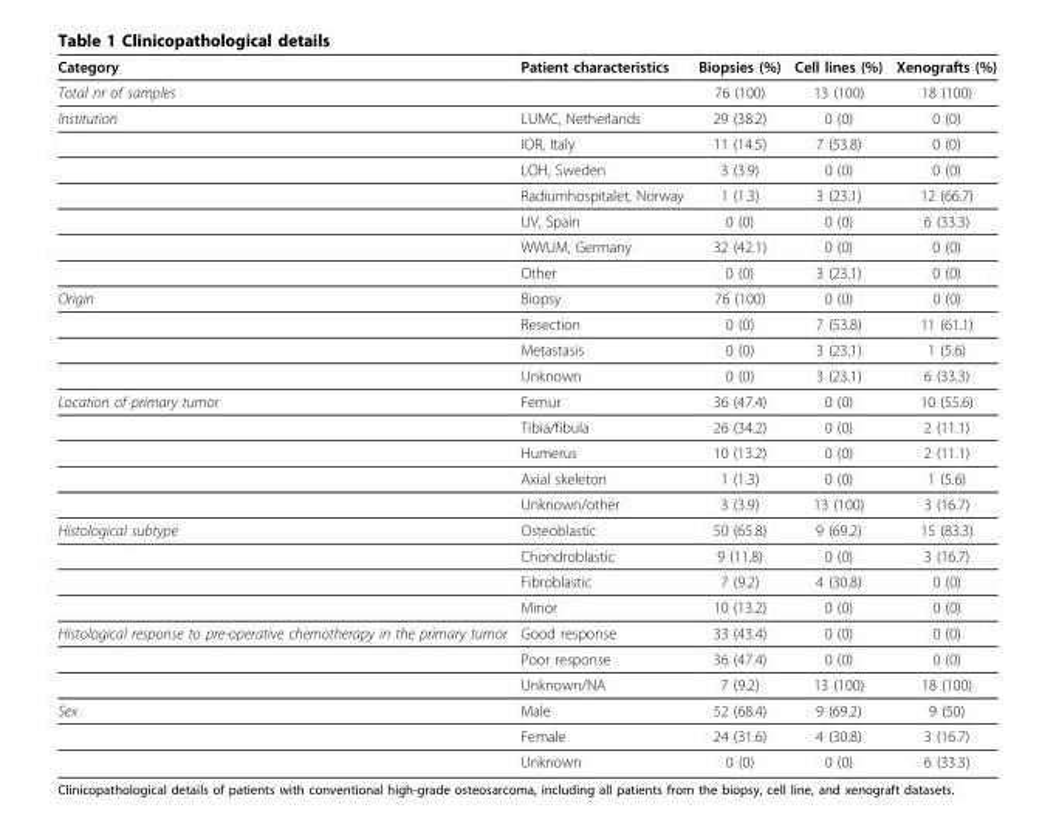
<table><thead><tr><td>Category</td><td>Patient characteristics</td><td>Biopsies (%)</td><td>Cell lines (%)</td><td>Xenografts (%)</td></tr></thead><tbody><tr><td>Total nr of samples</td><td></td><td>76 (100)</td><td>13 (100)</td><td>18 (100)</td></tr><tr><td rowspan="7">Institution</td><td>LUMC, Netherlands</td><td>29 (38.2)</td><td>0 (0)</td><td>0 (0)</td></tr><tr><td>IOR, Italy</td><td>11 (14.5)</td><td>7 (53.8)</td><td>0 (0)</td></tr><tr><td>LOH, Sweden</td><td>3 (3.9)</td><td>0 (0)</td><td>0 (0)</td></tr><tr><td>Radiumhospitalet, Norway</td><td>1 (1.3)</td><td>3 (23.1)</td><td>12 (66.7)</td></tr><tr><td>UV, Spain</td><td>0 (0)</td><td>0 (0)</td><td>6 (33.3)</td></tr><tr><td>WWUM, Germany</td><td>32 (42.1)</td><td>0 (0)</td><td>0 (0)</td></tr><tr><td>Other</td><td>0 (0)</td><td>3 (23.1)</td><td>0 (0)</td></tr><tr><td rowspan="4">Origin</td><td>Biopsy</td><td>76 (100)</td><td>0 (0)</td><td>0 (0)</td></tr><tr><td>Resection</td><td>0 (0)</td><td>7 (53.8)</td><td>11 (61.1)</td></tr><tr><td>Metastasis</td><td>0 (0)</td><td>3 (23.1)</td><td>1 (5.6)</td></tr><tr><td>Unknown</td><td>0 (0)</td><td>3 (23.1)</td><td>6 (33.3)</td></tr><tr><td rowspan="5">Location of primary tumor</td><td>Femur</td><td>36 (47.4)</td><td>0 (0)</td><td>10 (55.6)</td></tr><tr><td>Tibia/fibula</td><td>26 (34.2)</td><td>0 (0)</td><td>2 (11.1)</td></tr><tr><td>Humerus</td><td>10 (13.2)</td><td>0 (0)</td><td>2 (11.1)</td></tr><tr><td>Axial skeleton</td><td>1 (1.3)</td><td>0 (0)</td><td>1 (5.6)</td></tr><tr><td>Unknown/other</td><td>3 (3.9)</td><td>13 (100)</td><td>3 (16.7)</td></tr><tr><td rowspan="4">Histological subtype</td><td>Osteoblastic</td><td>50 (65.8)</td><td>9 (69.2)</td><td>15 (83.3)</td></tr><tr><td>Chondroblastic</td><td>9 (11.8)</td><td>0 (0)</td><td>3 (16.7)</td></tr><tr><td>Fibroblastic</td><td>7 (9.2)</td><td>4 (30.8)</td><td>0 (0)</td></tr><tr><td>Minor</td><td>10 (13.2)</td><td>0 (0)</td><td>0 (0)</td></tr><tr><td rowspan="3">Histological response to pre-operative chemotherapy in the primary tumor</td><td>Good response</td><td>33 (43.4)</td><td>0 (0)</td><td>0 (0)</td></tr><tr><td>Poor response</td><td>36 (47.4)</td><td>0 (0)</td><td>0 (0)</td></tr><tr><td>Unknown/NA</td><td>7 (9.2)</td><td>13 (100)</td><td>18 (100)</td></tr><tr><td rowspan="3">Sex</td><td>Male</td><td>52 (68.4)</td><td>9 (69.2)</td><td>9 (50)</td></tr><tr><td>Female</td><td>24 (31.6)</td><td>4 (30.8)</td><td>3 (16.7)</td></tr><tr><td>Unknown</td><td>0 (0)</td><td>0 (0)</td><td>6 (33.3)</td></tr></tbody></table>